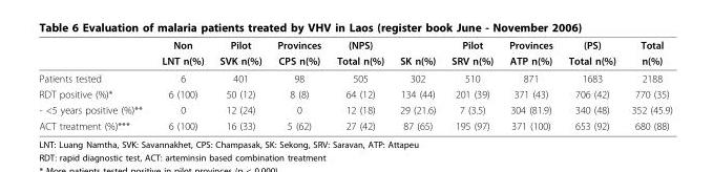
<table><thead><tr><td rowspan="2"></td><td rowspan="2">Non LNT n(%)</td><td rowspan="2">Pilot SVK n(%)</td><td rowspan="2">Provinces CPS n(%)</td><td rowspan="2">(NPS) Total n(%)</td><td rowspan="2">SK n(%)</td><td rowspan="2">Pilot SRV n(%)</td><td rowspan="2">Provinces ATP n(%)</td><td rowspan="2">(PS) Total n(%)</td><td rowspan="2">Total n(%)</td></tr><tr></tr></thead><tbody><tr><td>Patients tested</td><td>6</td><td>401</td><td>98</td><td>505</td><td>302</td><td>510</td><td>871</td><td>1683</td><td>2188</td></tr><tr><td>RDT positive (%)*</td><td>6 (100)</td><td>50 (12)</td><td>8 (8)</td><td>64 (12)</td><td>134 (44)</td><td>201 (39)</td><td>371 (43)</td><td>706 (42)</td><td>770 (35)</td></tr><tr><td>- &lt;5 years positive (%)**</td><td>0</td><td>12 (24)</td><td>0</td><td>12 (18)</td><td>29 (21.6)</td><td>7 (3.5)</td><td>304 (81.9)</td><td>340 (48)</td><td>352 (45.9)</td></tr><tr><td>ACT treatment (%)***</td><td>6 (100)</td><td>16 (33)</td><td>5 (62)</td><td>27 (42)</td><td>87 (65)</td><td>195 (97)</td><td>371 (100)</td><td>653 (92)</td><td>680 (88)</td></tr></tbody></table>